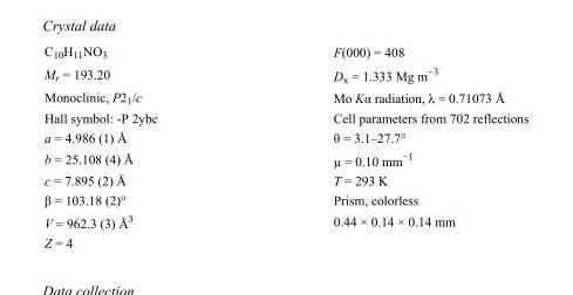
<table><tbody><tr><td>C<sub>10</sub>H<sub>11</sub>NO<sub>3</sub></td><td>F(000) = 408</td></tr><tr><td>M<sub>r</sub> = 193.20</td><td>D<sub>x</sub> = 1.333 Mg m<sup>−3</sup></td></tr><tr><td>Monoclinic, P2<sub>1</sub>/c</td><td>Mo Kα radiation, λ = 0.71073 Å</td></tr><tr><td>Hall symbol: -P 2ybc</td><td>Cell parameters from 702 reflections</td></tr><tr><td>a = 4.986 (1) Å</td><td>θ = 3.1–27.7°</td></tr><tr><td>b = 25.108 (4) Å</td><td>µ = 0.10 mm<sup>−1</sup></td></tr><tr><td>c = 7.895 (2) Å</td><td>T = 293 K</td></tr><tr><td>β = 103.18 (2)°</td><td>Prism, colorless</td></tr><tr><td>V = 962.3 (3) Å<sup>3</sup></td><td>0.44 × 0.14 × 0.14 mm</td></tr><tr><td>Z = 4</td><td></td></tr></tbody></table>